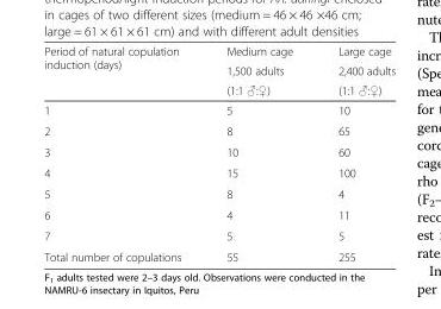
<table><thead><tr><td rowspan="3">Period of natural copulation induction (days)</td><td rowspan="3">Medium cage 1,500 adults (1:1 ♂:♀)</td><td rowspan="3">Large cage 2,400 adults (1:1 ♂:♀)</td></tr><tr></tr><tr></tr></thead><tbody><tr><td>1</td><td>5</td><td>10</td></tr><tr><td>2</td><td>8</td><td>65</td></tr><tr><td>3</td><td>10</td><td>60</td></tr><tr><td>4</td><td>15</td><td>100</td></tr><tr><td>5</td><td>8</td><td>4</td></tr><tr><td>6</td><td>4</td><td>11</td></tr><tr><td>7</td><td>5</td><td>5</td></tr><tr><td>Total number of copulations</td><td>55</td><td>255</td></tr></tbody></table>